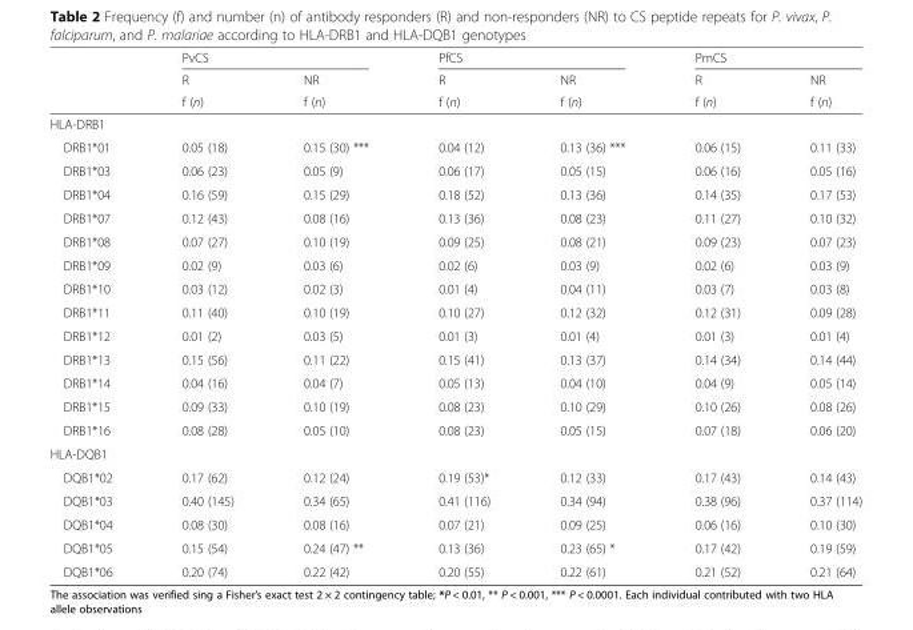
<table><thead><tr><td rowspan="3"></td><td colspan="2">PvCS</td><td colspan="2">PfCS</td><td colspan="2">PmCS</td></tr><tr><td rowspan="2">R f (n)</td><td rowspan="2">NR f (n)</td><td rowspan="2">R f (n)</td><td rowspan="2">NR f (n)</td><td rowspan="2">R f (n)</td><td rowspan="2">NR f (n)</td></tr><tr></tr></thead><tbody><tr><td colspan="7">HLA-DRB1</td></tr><tr><td>DRB1*01</td><td>0.05 (18)</td><td>0.15 (30) ***</td><td>0.04 (12)</td><td>0.13 (36) ***</td><td>0.06 (15)</td><td>0.11 (33)</td></tr><tr><td>DRB1*03</td><td>0.06 (23)</td><td>0.05 (9)</td><td>0.06 (17)</td><td>0.05 (15)</td><td>0.06 (16)</td><td>0.05 (16)</td></tr><tr><td>DRB1*04</td><td>0.16 (59)</td><td>0.15 (29)</td><td>0.18 (52)</td><td>0.13 (36)</td><td>0.14 (35)</td><td>0.17 (53)</td></tr><tr><td>DRB1*07</td><td>0.12 (43)</td><td>0.08 (16)</td><td>0.13 (36)</td><td>0.08 (23)</td><td>0.11 (27)</td><td>0.10 (32)</td></tr><tr><td>DRB1*08</td><td>0.07 (27)</td><td>0.10 (19)</td><td>0.09 (25)</td><td>0.08 (21)</td><td>0.09 (23)</td><td>0.07 (23)</td></tr><tr><td>DRB1*09</td><td>0.02 (9)</td><td>0.03 (6)</td><td>0.02 (6)</td><td>0.03 (9)</td><td>0.02 (6)</td><td>0.03 (9)</td></tr><tr><td>DRB1*10</td><td>0.03 (12)</td><td>0.02 (3)</td><td>0.01 (4)</td><td>0.04 (11)</td><td>0.03 (7)</td><td>0.03 (8)</td></tr><tr><td>DRB1*11</td><td>0.11 (40)</td><td>0.10 (19)</td><td>0.10 (27)</td><td>0.12 (32)</td><td>0.12 (31)</td><td>0.09 (28)</td></tr><tr><td>DRB1*12</td><td>0.01 (2)</td><td>0.03 (5)</td><td>0.01 (3)</td><td>0.01 (4)</td><td>0.01 (3)</td><td>0.01 (4)</td></tr><tr><td>DRB1*13</td><td>0.15 (56)</td><td>0.11 (22)</td><td>0.15 (41)</td><td>0.13 (37)</td><td>0.14 (34)</td><td>0.14 (44)</td></tr><tr><td>DRB1*14</td><td>0.04 (16)</td><td>0.04 (7)</td><td>0.05 (13)</td><td>0.04 (10)</td><td>0.04 (9)</td><td>0.05 (14)</td></tr><tr><td>DRB1*15</td><td>0.09 (33)</td><td>0.10 (19)</td><td>0.08 (23)</td><td>0.10 (29)</td><td>0.10 (26)</td><td>0.08 (26)</td></tr><tr><td>DRB1*16</td><td>0.08 (28)</td><td>0.05 (10)</td><td>0.08 (23)</td><td>0.05 (15)</td><td>0.07 (18)</td><td>0.06 (20)</td></tr><tr><td colspan="7">HLA-DQB1</td></tr><tr><td>DQB1*02</td><td>0.17 (62)</td><td>0.12 (24)</td><td>0.19 (53)*</td><td>0.12 (33)</td><td>0.17 (43)</td><td>0.14 (43)</td></tr><tr><td>DQB1*03</td><td>0.40 (145)</td><td>0.34 (65)</td><td>0.41 (116)</td><td>0.34 (94)</td><td>0.38 (96)</td><td>0.37 (114)</td></tr><tr><td>DQB1*04</td><td>0.08 (30)</td><td>0.08 (16)</td><td>0.07 (21)</td><td>0.09 (25)</td><td>0.06 (16)</td><td>0.10 (30)</td></tr><tr><td>DQB1*05</td><td>0.15 (54)</td><td>0.24 (47) **</td><td>0.13 (36)</td><td>0.23 (65) *</td><td>0.17 (42)</td><td>0.19 (59)</td></tr><tr><td>DQB1*06</td><td>0.20 (74)</td><td>0.22 (42)</td><td>0.20 (55)</td><td>0.22 (61)</td><td>0.21 (52)</td><td>0.21 (64)</td></tr></tbody></table>